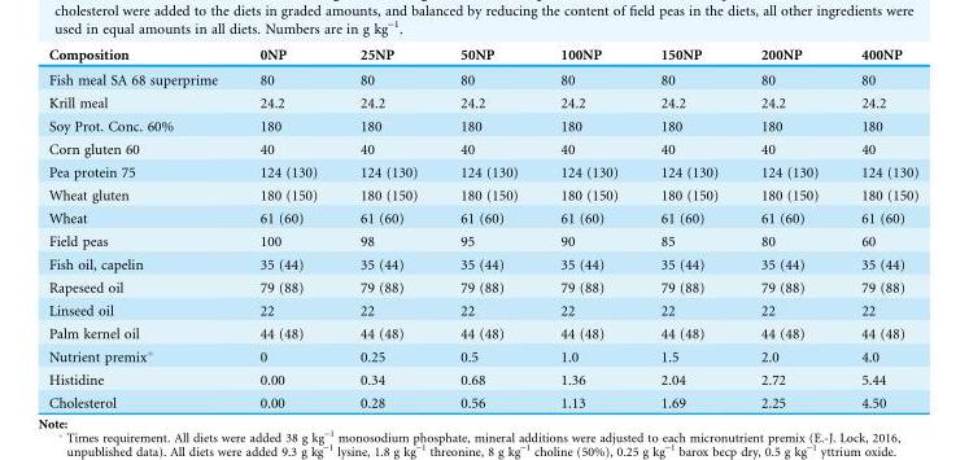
<table><thead><tr><td>Composition</td><td>0NP</td><td>25NP</td><td>50NP</td><td>100NP</td><td>150NP</td><td>200NP</td><td>400NP</td></tr></thead><tbody><tr><td>Fish meal SA 68 superprime</td><td>80</td><td>80</td><td>80</td><td>80</td><td>80</td><td>80</td><td>80</td></tr><tr><td>Krill meal</td><td>24.2</td><td>24.2</td><td>24.2</td><td>24.2</td><td>24.2</td><td>24.2</td><td>24.2</td></tr><tr><td>Soy Prot. Conc. 60%</td><td>180</td><td>180</td><td>180</td><td>180</td><td>180</td><td>180</td><td>180</td></tr><tr><td>Corn gluten 60</td><td>40</td><td>40</td><td>40</td><td>40</td><td>40</td><td>40</td><td>40</td></tr><tr><td>Pea protein 75</td><td>124 (130)</td><td>124 (130)</td><td>124 (130)</td><td>124 (130)</td><td>124 (130)</td><td>124 (130)</td><td>124 (130)</td></tr><tr><td>Wheat gluten</td><td>180 (150)</td><td>180 (150)</td><td>180 (150)</td><td>180 (150)</td><td>180 (150)</td><td>180 (150)</td><td>180 (150)</td></tr><tr><td>Wheat</td><td>61 (60)</td><td>61 (60)</td><td>61 (60)</td><td>61 (60)</td><td>61 (60)</td><td>61 (60)</td><td>61 (60)</td></tr><tr><td>Field peas</td><td>100</td><td>98</td><td>95</td><td>90</td><td>85</td><td>80</td><td>60</td></tr><tr><td>Fish oil, capelin</td><td>35 (44)</td><td>35 (44)</td><td>35 (44)</td><td>35 (44)</td><td>35 (44)</td><td>35 (44)</td><td>35 (44)</td></tr><tr><td>Rapeseed oil</td><td>79 (88)</td><td>79 (88)</td><td>79 (88)</td><td>79 (88)</td><td>79 (88)</td><td>79 (88)</td><td>79 (88)</td></tr><tr><td>Linseed oil</td><td>22</td><td>22</td><td>22</td><td>22</td><td>22</td><td>22</td><td>22</td></tr><tr><td>Palm kernel oil</td><td>44 (48)</td><td>44 (48)</td><td>44 (48)</td><td>44 (48)</td><td>44 (48)</td><td>44 (48)</td><td>44 (48)</td></tr><tr><td>Nutrient premix*</td><td>0</td><td>0.25</td><td>0.5</td><td>1.0</td><td>1.5</td><td>2.0</td><td>4.0</td></tr><tr><td>Histidine</td><td>0.00</td><td>0.34</td><td>0.68</td><td>1.36</td><td>2.04</td><td>2.72</td><td>5.44</td></tr><tr><td>Cholesterol</td><td>0.00</td><td>0.28</td><td>0.56</td><td>1.13</td><td>1.69</td><td>2.25</td><td>4.50</td></tr></tbody></table>